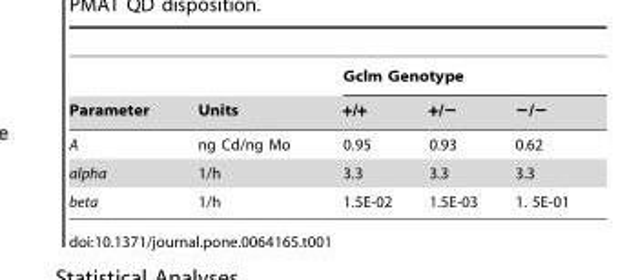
<table><thead><tr><td rowspan="2">Parameter</td><td rowspan="2">Units</td><td colspan="3">Gclm Genotype</td></tr><tr><td>+/+</td><td>+/−</td><td>−/−</td></tr></thead><tbody><tr><td>A</td><td>ng Cd/ng Mo</td><td>0.95</td><td>0.93</td><td>0.62</td></tr><tr><td>alpha</td><td>1/h</td><td>3.3</td><td>3.3</td><td>3.3</td></tr><tr><td>beta</td><td>1/h</td><td>1.5E-02</td><td>1.5E-03</td><td>1. 5E-01</td></tr></tbody></table>